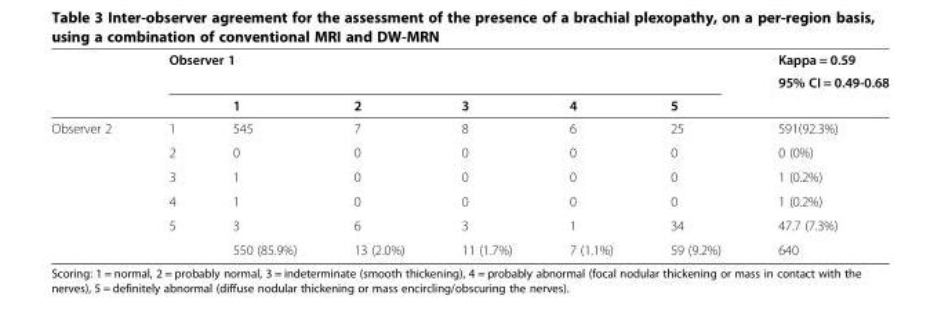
<table><thead><tr><td rowspan="3"></td><td rowspan="2" colspan="6">Observer 1</td><td rowspan="3">Kappa = 0.59 95% CI = 0.49-0.68</td></tr><tr></tr><tr><td></td><td>1</td><td>2</td><td>3</td><td>4</td><td>5</td></tr></thead><tbody><tr><td rowspan="6">Observer 2</td><td>1</td><td>545</td><td>7</td><td>8</td><td>6</td><td>25</td><td>591(92.3%)</td></tr><tr><td>2</td><td>0</td><td>0</td><td>0</td><td>0</td><td>0</td><td>0 (0%)</td></tr><tr><td>3</td><td>1</td><td>0</td><td>0</td><td>0</td><td>0</td><td>1 (0.2%)</td></tr><tr><td>4</td><td>1</td><td>0</td><td>0</td><td>0</td><td>0</td><td>1 (0.2%)</td></tr><tr><td>5</td><td>3</td><td>6</td><td>3</td><td>1</td><td>34</td><td>47.7 (7.3%)</td></tr><tr><td></td><td>550 (85.9%)</td><td>13 (2.0%)</td><td>11 (1.7%)</td><td>7 (1.1%)</td><td>59 (9.2%)</td><td>640</td></tr></tbody></table>